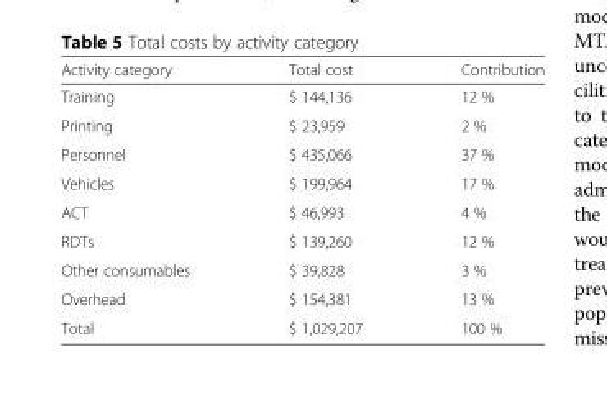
<table><thead><tr><td>Activity category</td><td>Total cost</td><td>Contribution</td></tr></thead><tbody><tr><td>Training</td><td>$ 144,136</td><td>12 %</td></tr><tr><td>Printing</td><td>$ 23,959</td><td>2 %</td></tr><tr><td>Personnel</td><td>$ 435,066</td><td>37 %</td></tr><tr><td>Vehicles</td><td>$ 199,964</td><td>17 %</td></tr><tr><td>ACT</td><td>$ 46,993</td><td>4 %</td></tr><tr><td>RDTs</td><td>$ 139,260</td><td>12 %</td></tr><tr><td>Other consumables</td><td>$ 39,828</td><td>3 %</td></tr><tr><td>Overhead</td><td>$ 154,381</td><td>13 %</td></tr><tr><td>Total</td><td>$ 1,029,207</td><td>100 %</td></tr></tbody></table>